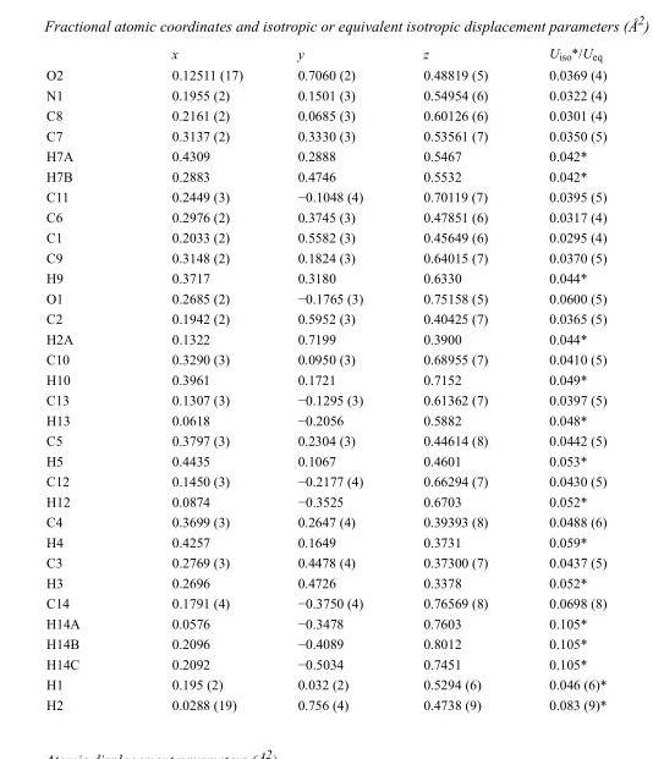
<table><thead><tr><td></td><td>x</td><td>y</td><td>z</td><td>U<sub>iso</sub>*/U<sub>eq</sub></td></tr></thead><tbody><tr><td>O2</td><td>0.12511 (17)</td><td>0.7060 (2)</td><td>0.48819 (5)</td><td>0.0369 (4)</td></tr><tr><td>N1</td><td>0.1955 (2)</td><td>0.1501 (3)</td><td>0.54954 (6)</td><td>0.0322 (4)</td></tr><tr><td>C8</td><td>0.2161 (2)</td><td>0.0685 (3)</td><td>0.60126 (6)</td><td>0.0301 (4)</td></tr><tr><td>C7</td><td>0.3137 (2)</td><td>0.3330 (3)</td><td>0.53561 (7)</td><td>0.0350 (5)</td></tr><tr><td>H7A</td><td>0.4309</td><td>0.2888</td><td>0.5467</td><td>0.042*</td></tr><tr><td>H7B</td><td>0.2883</td><td>0.4746</td><td>0.5532</td><td>0.042*</td></tr><tr><td>C11</td><td>0.2449 (3)</td><td>−0.1048 (4)</td><td>0.70119 (7)</td><td>0.0395 (5)</td></tr><tr><td>C6</td><td>0.2976 (2)</td><td>0.3745 (3)</td><td>0.47851 (6)</td><td>0.0317 (4)</td></tr><tr><td>C1</td><td>0.2033 (2)</td><td>0.5582 (3)</td><td>0.45649 (6)</td><td>0.0295 (4)</td></tr><tr><td>C9</td><td>0.3148 (2)</td><td>0.1824 (3)</td><td>0.64015 (7)</td><td>0.0370 (5)</td></tr><tr><td>H9</td><td>0.3717</td><td>0.3180</td><td>0.6330</td><td>0.044*</td></tr><tr><td>O1</td><td>0.2685 (2)</td><td>−0.1765 (3)</td><td>0.75158 (5)</td><td>0.0600 (5)</td></tr><tr><td>C2</td><td>0.1942 (2)</td><td>0.5952 (3)</td><td>0.40425 (7)</td><td>0.0365 (5)</td></tr><tr><td>H2A</td><td>0.1322</td><td>0.7199</td><td>0.3900</td><td>0.044*</td></tr><tr><td>C10</td><td>0.3290 (3)</td><td>0.0950 (3)</td><td>0.68955 (7)</td><td>0.0410 (5)</td></tr><tr><td>H10</td><td>0.3961</td><td>0.1721</td><td>0.7152</td><td>0.049*</td></tr><tr><td>C13</td><td>0.1307 (3)</td><td>−0.1295 (3)</td><td>0.61362 (7)</td><td>0.0397 (5)</td></tr><tr><td>H13</td><td>0.0618</td><td>−0.2056</td><td>0.5882</td><td>0.048*</td></tr><tr><td>C5</td><td>0.3797 (3)</td><td>0.2304 (3)</td><td>0.44614 (8)</td><td>0.0442 (5)</td></tr><tr><td>H5</td><td>0.4435</td><td>0.1067</td><td>0.4601</td><td>0.053*</td></tr><tr><td>C12</td><td>0.1450 (3)</td><td>−0.2177 (4)</td><td>0.66294 (7)</td><td>0.0430 (5)</td></tr><tr><td>H12</td><td>0.0874</td><td>−0.3525</td><td>0.6703</td><td>0.052*</td></tr><tr><td>C4</td><td>0.3699 (3)</td><td>0.2647 (4)</td><td>0.39393 (8)</td><td>0.0488 (6)</td></tr><tr><td>H4</td><td>0.4257</td><td>0.1649</td><td>0.3731</td><td>0.059*</td></tr><tr><td>C3</td><td>0.2769 (3)</td><td>0.4478 (4)</td><td>0.37300 (7)</td><td>0.0437 (5)</td></tr><tr><td>H3</td><td>0.2696</td><td>0.4726</td><td>0.3378</td><td>0.052*</td></tr><tr><td>C14</td><td>0.1791 (4)</td><td>−0.3750 (4)</td><td>0.76569 (8)</td><td>0.0698 (8)</td></tr><tr><td>H14A</td><td>0.0576</td><td>−0.3478</td><td>0.7603</td><td>0.105*</td></tr><tr><td>H14B</td><td>0.2096</td><td>−0.4089</td><td>0.8012</td><td>0.105*</td></tr><tr><td>H14C</td><td>0.2092</td><td>−0.5034</td><td>0.7451</td><td>0.105*</td></tr><tr><td>H1</td><td>0.195 (2)</td><td>0.032 (2)</td><td>0.5294 (6)</td><td>0.046 (6)*</td></tr><tr><td>H2</td><td>0.0288 (19)</td><td>0.756 (4)</td><td>0.4738 (9)</td><td>0.083 (9)*</td></tr></tbody></table>